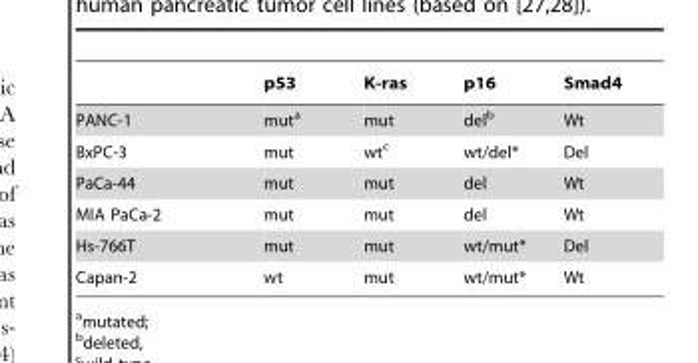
<table><thead><tr><td></td><td>p53</td><td>K-ras</td><td>p16</td><td>Smad4</td></tr></thead><tbody><tr><td>PANC-1</td><td>mut<sup>a</sup></td><td>mut</td><td>del<sup>b</sup></td><td>Wt</td></tr><tr><td>BxPC-3</td><td>mut</td><td>wt<sup>c</sup></td><td>wt/del*</td><td>Del</td></tr><tr><td>PaCa-44</td><td>mut</td><td>mut</td><td>del</td><td>Wt</td></tr><tr><td>MIA PaCa-2</td><td>mut</td><td>mut</td><td>del</td><td>Wt</td></tr><tr><td>Hs-766T</td><td>mut</td><td>mut</td><td>wt/mut*</td><td>Del</td></tr><tr><td>Capan-2</td><td>wt</td><td>mut</td><td>wt/mut*</td><td>Wt</td></tr></tbody></table>